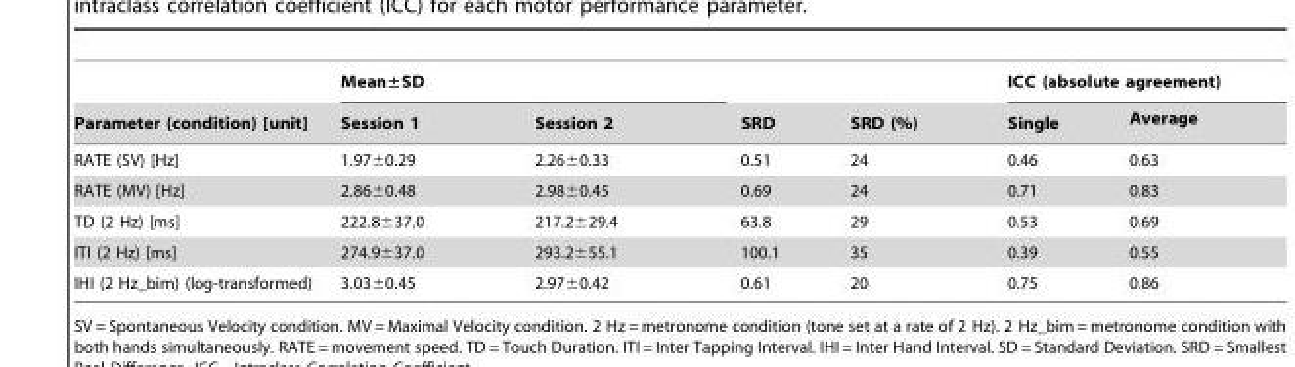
<table><thead><tr><td rowspan="2">Parameter (condition) [unit]</td><td colspan="2">Mean±SD</td><td rowspan="2">SRD</td><td rowspan="2">SRD (%)</td><td colspan="2">ICC (absolute agreement)</td></tr><tr><td>Session 1</td><td>Session 2</td><td>Single</td><td>Average</td></tr></thead><tbody><tr><td>RATE (SV) [Hz]</td><td>1.97±0.29</td><td>2.26±0.33</td><td>0.51</td><td>24</td><td>0.46</td><td>0.63</td></tr><tr><td>RATE (MV) [Hz]</td><td>2.86±0.48</td><td>2.98±0.45</td><td>0.69</td><td>24</td><td>0.71</td><td>0.83</td></tr><tr><td>TD (2 Hz) [ms]</td><td>222.8±37.0</td><td>217.2±29.4</td><td>63.8</td><td>29</td><td>0.53</td><td>0.69</td></tr><tr><td>ITI (2 Hz) [ms]</td><td>274.9±37.0</td><td>293.2±55.1</td><td>100.1</td><td>35</td><td>0.39</td><td>0.55</td></tr><tr><td>IHI (2 Hz_bim) (log-transformed)</td><td>3.03±0.45</td><td>2.97±0.42</td><td>0.61</td><td>20</td><td>0.75</td><td>0.86</td></tr></tbody></table>